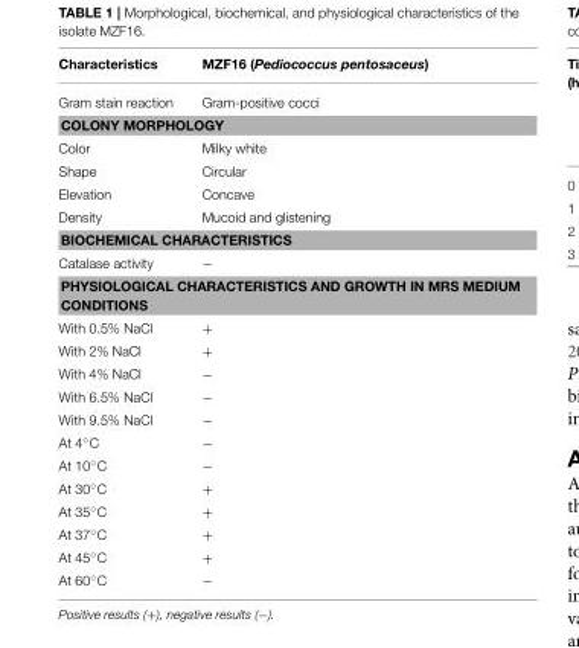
<table><thead><tr><td>Characteristics</td><td>MZF16 (Pediococcus pentosaceus)</td></tr></thead><tbody><tr><td>Gram stain reaction</td><td>Gram-positive cocci</td></tr><tr><td colspan="2">COLONY MORPHOLOGY</td></tr><tr><td>Color</td><td>Milky white</td></tr><tr><td>Shape</td><td>Circular</td></tr><tr><td>Elevation</td><td>Concave</td></tr><tr><td>Density</td><td>Mucoid and glistening</td></tr><tr><td colspan="2">BIOCHEMICAL CHARACTERISTICS</td></tr><tr><td>Catalase activity</td><td>−</td></tr><tr><td colspan="2">PHYSIOLOGICAL CHARACTERISTICS AND GROWTH IN MRS MEDIUM</td></tr><tr><td colspan="2">CONDITIONS</td></tr><tr><td>With 0.5% NaCl</td><td>+</td></tr><tr><td>With 2% NaCl</td><td>+</td></tr><tr><td>With 4% NaCl</td><td>−</td></tr><tr><td>With 6.5% NaCl</td><td>−</td></tr><tr><td>With 9.5% NaCl</td><td>−</td></tr><tr><td>At 4◦C</td><td>−</td></tr><tr><td>At 10◦C</td><td>−</td></tr><tr><td>At 30◦C</td><td>+</td></tr><tr><td>At 35◦C</td><td>+</td></tr><tr><td>At 37◦C</td><td>+</td></tr><tr><td>At 45◦C</td><td>+</td></tr><tr><td>At 60◦C</td><td>−</td></tr></tbody></table>